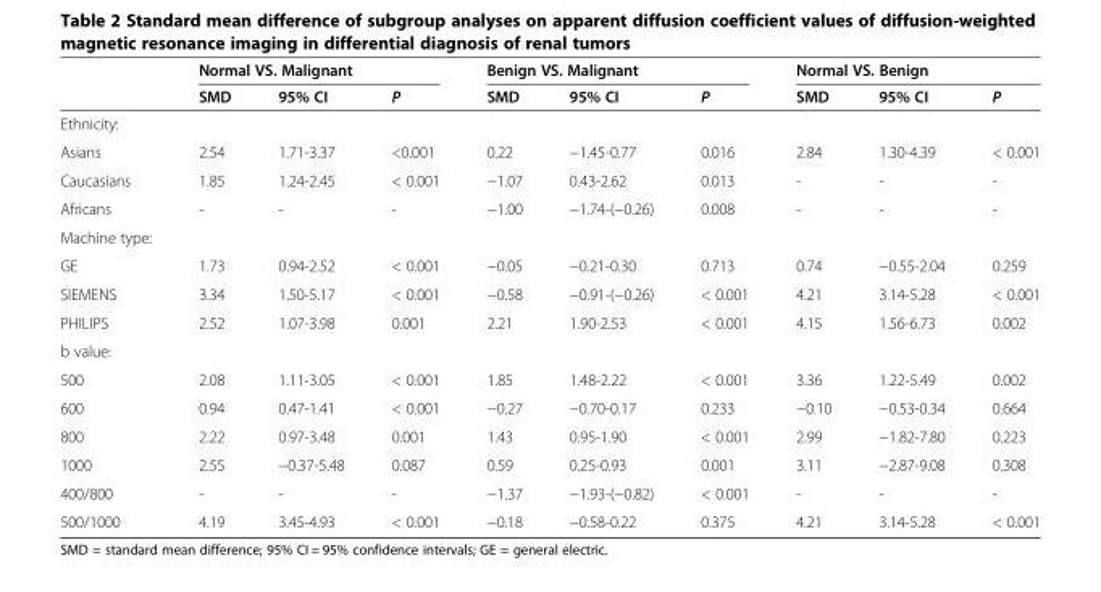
<table><thead><tr><td rowspan="2"></td><td colspan="3">Normal VS. Malignant</td><td colspan="3">Benign VS. Malignant</td><td colspan="3">Normal VS. Benign</td></tr><tr><td>SMD</td><td>95% CI</td><td>P</td><td>SMD</td><td>95% CI</td><td>P</td><td>SMD</td><td>95% CI</td><td>P</td></tr></thead><tbody><tr><td colspan="10">Ethnicity:</td></tr><tr><td>Asians</td><td>2.54</td><td>1.71-3.37</td><td>&lt;0.001</td><td>0.22</td><td>−1.45-0.77</td><td>0.016</td><td>2.84</td><td>1.30-4.39</td><td>&lt; 0.001</td></tr><tr><td>Caucasians</td><td>1.85</td><td>1.24-2.45</td><td>&lt; 0.001</td><td>−1.07</td><td>0.43-2.62</td><td>0.013</td><td>-</td><td>-</td><td>-</td></tr><tr><td>Africans</td><td>-</td><td>-</td><td>-</td><td>−1.00</td><td>−1.74-(−0.26)</td><td>0.008</td><td>-</td><td>-</td><td>-</td></tr><tr><td colspan="10">Machine type:</td></tr><tr><td>GE</td><td>1.73</td><td>0.94-2.52</td><td>&lt; 0.001</td><td>−0.05</td><td>−0.21-0.30</td><td>0.713</td><td>0.74</td><td>−0.55-2.04</td><td>0.259</td></tr><tr><td>SIEMENS</td><td>3.34</td><td>1.50-5.17</td><td>&lt; 0.001</td><td>−0.58</td><td>−0.91-(−0.26)</td><td>&lt; 0.001</td><td>4.21</td><td>3.14-5.28</td><td>&lt; 0.001</td></tr><tr><td>PHILIPS</td><td>2.52</td><td>1.07-3.98</td><td>0.001</td><td>2.21</td><td>1.90-2.53</td><td>&lt; 0.001</td><td>4.15</td><td>1.56-6.73</td><td>0.002</td></tr><tr><td colspan="10">b value:</td></tr><tr><td>500</td><td>2.08</td><td>1.11-3.05</td><td>&lt; 0.001</td><td>1.85</td><td>1.48-2.22</td><td>&lt; 0.001</td><td>3.36</td><td>1.22-5.49</td><td>0.002</td></tr><tr><td>600</td><td>0.94</td><td>0.47-1.41</td><td>&lt; 0.001</td><td>−0.27</td><td>−0.70-0.17</td><td>0.233</td><td>−0.10</td><td>−0.53-0.34</td><td>0.664</td></tr><tr><td>800</td><td>2.22</td><td>0.97-3.48</td><td>0.001</td><td>1.43</td><td>0.95-1.90</td><td>&lt; 0.001</td><td>2.99</td><td>−1.82-7.80</td><td>0.223</td></tr><tr><td>1000</td><td>2.55</td><td>−0.37-5.48</td><td>0.087</td><td>0.59</td><td>0.25-0.93</td><td>0.001</td><td>3.11</td><td>−2.87-9.08</td><td>0.308</td></tr><tr><td>400/800</td><td>-</td><td>-</td><td>-</td><td>−1.37</td><td>−1.93-(−0.82)</td><td>&lt; 0.001</td><td>-</td><td>-</td><td>-</td></tr><tr><td>500/1000</td><td>4.19</td><td>3.45-4.93</td><td>&lt; 0.001</td><td>−0.18</td><td>−0.58-0.22</td><td>0.375</td><td>4.21</td><td>3.14-5.28</td><td>&lt; 0.001</td></tr></tbody></table>